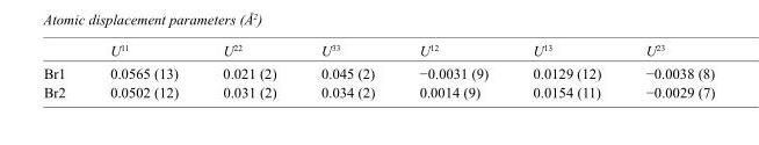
<table><thead><tr><td></td><td>U<sup>11</sup></td><td>U<sup>22</sup></td><td>U<sup>33</sup></td><td>U<sup>12</sup></td><td>U<sup>13</sup></td><td>U<sup>23</sup></td></tr></thead><tbody><tr><td>Br1</td><td>0.0565 (13)</td><td>0.021 (2)</td><td>0.045 (2)</td><td>−0.0031 (9)</td><td>0.0129 (12)</td><td>−0.0038 (8)</td></tr><tr><td>Br2</td><td>0.0502 (12)</td><td>0.031 (2)</td><td>0.034 (2)</td><td>0.0014 (9)</td><td>0.0154 (11)</td><td>−0.0029 (7)</td></tr></tbody></table>